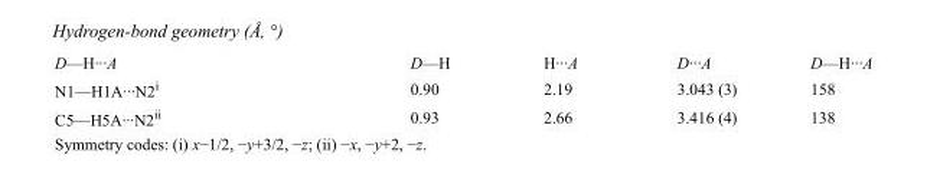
<table><tbody><tr><td>D—H···A</td><td>D—H</td><td>H···A</td><td>D···A</td><td>D—H···A</td></tr><tr><td>N1—H1A···N2<sup>i</sup></td><td>0.90</td><td>2.19</td><td>3.043 (3)</td><td>158</td></tr><tr><td>C5—H5A···N2<sup>ii</sup></td><td>0.93</td><td>2.66</td><td>3.416 (4)</td><td>138</td></tr></tbody></table>